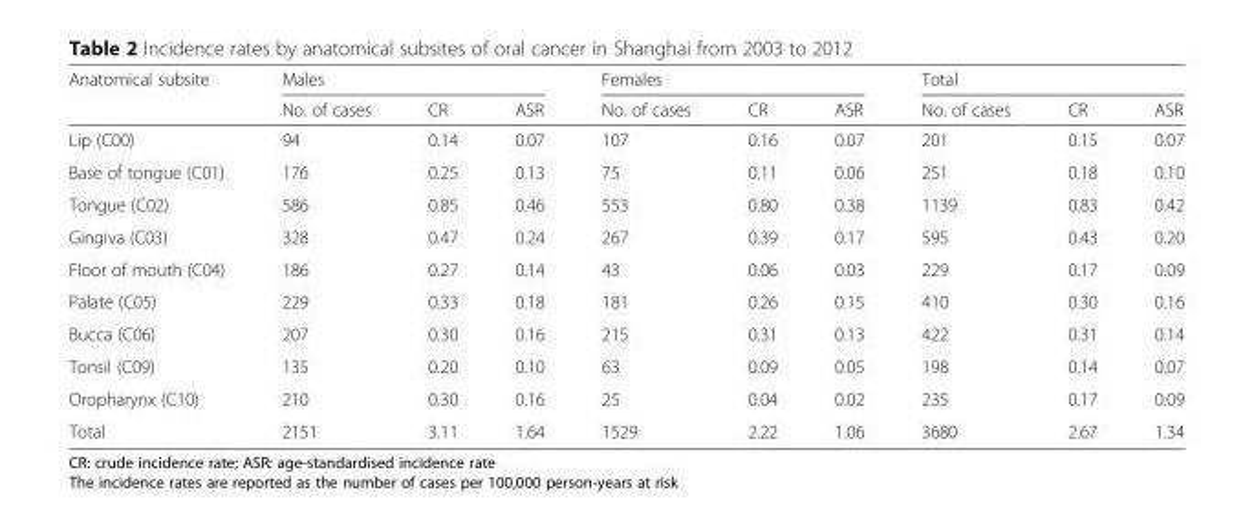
<table><thead><tr><td rowspan="2">Anatomical subsite</td><td colspan="3">Males</td><td colspan="3">Females</td><td colspan="3">Total</td></tr><tr><td>No. of cases</td><td>CR</td><td>ASR</td><td>No. of cases</td><td>CR</td><td>ASR</td><td>No. of cases</td><td>CR</td><td>ASR</td></tr></thead><tbody><tr><td>Lip (C00)</td><td>94</td><td>0.14</td><td>0.07</td><td>107</td><td>0.16</td><td>0.07</td><td>201</td><td>0.15</td><td>0.07</td></tr><tr><td>Base of tongue (C01)</td><td>176</td><td>0.25</td><td>0.13</td><td>75</td><td>0.11</td><td>0.06</td><td>251</td><td>0.18</td><td>0.10</td></tr><tr><td>Tongue (C02)</td><td>586</td><td>0.85</td><td>0.46</td><td>553</td><td>0.80</td><td>0.38</td><td>1139</td><td>0.83</td><td>0.42</td></tr><tr><td>Gingiva (C03)</td><td>328</td><td>0.47</td><td>0.24</td><td>267</td><td>0.39</td><td>0.17</td><td>595</td><td>0.43</td><td>0.20</td></tr><tr><td>Floor of mouth (C04)</td><td>186</td><td>0.27</td><td>0.14</td><td>43</td><td>0.06</td><td>0.03</td><td>229</td><td>0.17</td><td>0.09</td></tr><tr><td>Palate (C05)</td><td>229</td><td>0.33</td><td>0.18</td><td>181</td><td>0.26</td><td>0.15</td><td>410</td><td>0.30</td><td>0.16</td></tr><tr><td>Bucca (C06)</td><td>207</td><td>0.30</td><td>0.16</td><td>215</td><td>0.31</td><td>0.13</td><td>422</td><td>0.31</td><td>0.14</td></tr><tr><td>Tonsil (C09)</td><td>135</td><td>0.20</td><td>0.10</td><td>63</td><td>0.09</td><td>0.05</td><td>198</td><td>0.14</td><td>0.07</td></tr><tr><td>Oropharynx (C10)</td><td>210</td><td>0.30</td><td>0.16</td><td>25</td><td>0.04</td><td>0.02</td><td>235</td><td>0.17</td><td>0.09</td></tr><tr><td>Total</td><td>2151</td><td>3.11</td><td>1.64</td><td>1529</td><td>2.22</td><td>1.06</td><td>3680</td><td>2.67</td><td>1.34</td></tr></tbody></table>